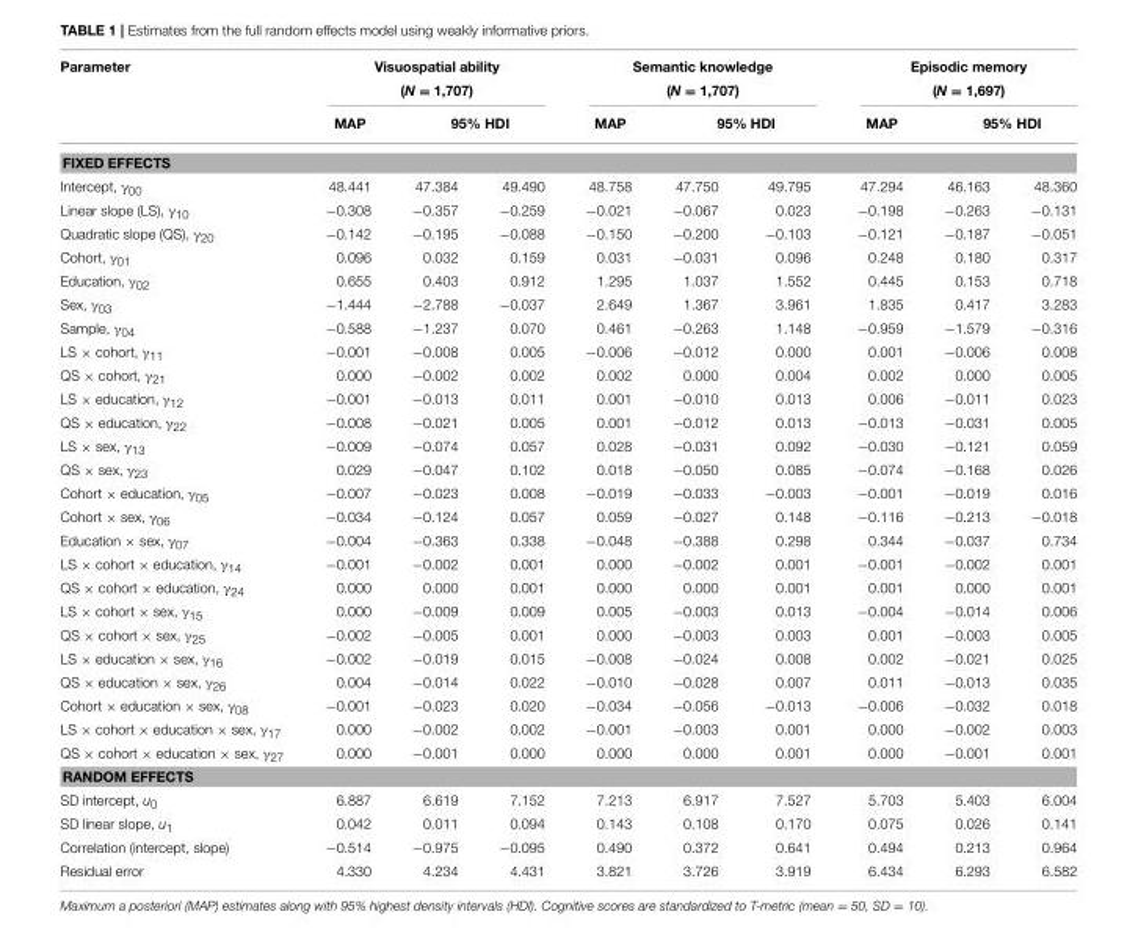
<table><thead><tr><td rowspan="2">Parameter</td><td colspan="3">Visuospatial ability (N = 1,707)</td><td colspan="3">Semantic knowledge (N = 1,707)</td><td colspan="3">Episodic memory (N = 1,697)</td></tr><tr><td>MAP</td><td colspan="2">95% HDI</td><td>MAP</td><td colspan="2">95% HDI</td><td>MAP</td><td colspan="2">95% HDI</td></tr><tr><td colspan="10">FIXED EFFECTS</td></tr><tr><td>Intercept, γ<sub>00</sub></td><td>48.441</td><td>47.384</td><td>49.490</td><td>48.758</td><td>47.750</td><td>49.795</td><td>47.294</td><td>46.163</td><td>48.360</td></tr></thead><tbody><tr><td>Linear slope (LS), γ<sub>10</sub></td><td>−0.308</td><td>−0.357</td><td>−0.259</td><td>−0.021</td><td>−0.067</td><td>0.023</td><td>−0.198</td><td>−0.263</td><td>−0.131</td></tr><tr><td>Quadratic slope (QS), γ<sub>20</sub></td><td>−0.142</td><td>−0.195</td><td>−0.088</td><td>−0.150</td><td>−0.200</td><td>−0.103</td><td>−0.121</td><td>−0.187</td><td>−0.051</td></tr><tr><td>Cohort, γ<sub>01</sub></td><td>0.096</td><td>0.032</td><td>0.159</td><td>0.031</td><td>−0.031</td><td>0.096</td><td>0.248</td><td>0.180</td><td>0.317</td></tr><tr><td>Education, γ<sub>02</sub></td><td>0.655</td><td>0.403</td><td>0.912</td><td>1.295</td><td>1.037</td><td>1.552</td><td>0.445</td><td>0.153</td><td>0.718</td></tr><tr><td>Sex, γ<sub>03</sub></td><td>−1.444</td><td>−2.788</td><td>−0.037</td><td>2.649</td><td>1.367</td><td>3.961</td><td>1.835</td><td>0.417</td><td>3.283</td></tr><tr><td>Sample, γ<sub>04</sub></td><td>−0.588</td><td>−1.237</td><td>0.070</td><td>0.461</td><td>−0.263</td><td>1.148</td><td>−0.959</td><td>−1.579</td><td>−0.316</td></tr><tr><td>LS × cohort, γ<sub>11</sub></td><td>−0.001</td><td>−0.008</td><td>0.005</td><td>−0.006</td><td>−0.012</td><td>0.000</td><td>0.001</td><td>−0.006</td><td>0.008</td></tr><tr><td>QS × cohort, γ<sub>21</sub></td><td>0.000</td><td>−0.002</td><td>0.002</td><td>0.002</td><td>0.000</td><td>0.004</td><td>0.002</td><td>0.000</td><td>0.005</td></tr><tr><td>LS × education, γ<sub>12</sub></td><td>−0.001</td><td>−0.013</td><td>0.011</td><td>0.001</td><td>−0.010</td><td>0.013</td><td>0.006</td><td>−0.011</td><td>0.023</td></tr><tr><td>QS × education, γ<sub>22</sub></td><td>−0.008</td><td>−0.021</td><td>0.005</td><td>0.001</td><td>−0.012</td><td>0.013</td><td>−0.013</td><td>−0.031</td><td>0.005</td></tr><tr><td>LS × sex, γ<sub>13</sub></td><td>−0.009</td><td>−0.074</td><td>0.057</td><td>0.028</td><td>−0.031</td><td>0.092</td><td>−0.030</td><td>−0.121</td><td>0.059</td></tr><tr><td>QS × sex, γ<sub>23</sub></td><td>0.029</td><td>−0.047</td><td>0.102</td><td>0.018</td><td>−0.050</td><td>0.085</td><td>−0.074</td><td>−0.168</td><td>0.026</td></tr><tr><td>Cohort × education, γ<sub>05</sub></td><td>−0.007</td><td>−0.023</td><td>0.008</td><td>−0.019</td><td>−0.033</td><td>−0.003</td><td>−0.001</td><td>−0.019</td><td>0.016</td></tr><tr><td>Cohort × sex, γ<sub>06</sub></td><td>−0.034</td><td>−0.124</td><td>0.057</td><td>0.059</td><td>−0.027</td><td>0.148</td><td>−0.116</td><td>−0.213</td><td>−0.018</td></tr><tr><td>Education × sex, γ<sub>07</sub></td><td>−0.004</td><td>−0.363</td><td>0.338</td><td>−0.048</td><td>−0.388</td><td>0.298</td><td>0.344</td><td>−0.037</td><td>0.734</td></tr><tr><td>LS × cohort × education, γ<sub>14</sub></td><td>−0.001</td><td>−0.002</td><td>0.001</td><td>0.000</td><td>−0.002</td><td>0.001</td><td>−0.001</td><td>−0.002</td><td>0.001</td></tr><tr><td>QS × cohort × education, γ<sub>24</sub></td><td>0.000</td><td>0.000</td><td>0.001</td><td>0.000</td><td>0.000</td><td>0.001</td><td>0.001</td><td>0.000</td><td>0.001</td></tr><tr><td>LS × cohort × sex, γ<sub>15</sub></td><td>0.000</td><td>−0.009</td><td>0.009</td><td>0.005</td><td>−0.003</td><td>0.013</td><td>−0.004</td><td>−0.014</td><td>0.006</td></tr><tr><td>QS × cohort × sex, γ<sub>25</sub></td><td>−0.002</td><td>−0.005</td><td>0.001</td><td>0.000</td><td>−0.003</td><td>0.003</td><td>0.001</td><td>−0.003</td><td>0.005</td></tr><tr><td>LS × education × sex, γ<sub>16</sub></td><td>−0.002</td><td>−0.019</td><td>0.015</td><td>−0.008</td><td>−0.024</td><td>0.008</td><td>0.002</td><td>−0.021</td><td>0.025</td></tr><tr><td>QS × education × sex, γ<sub>26</sub></td><td>0.004</td><td>−0.014</td><td>0.022</td><td>−0.010</td><td>−0.028</td><td>0.007</td><td>0.011</td><td>−0.013</td><td>0.035</td></tr><tr><td>Cohort × education × sex, γ<sub>08</sub></td><td>−0.001</td><td>−0.023</td><td>0.020</td><td>−0.034</td><td>−0.056</td><td>−0.013</td><td>−0.006</td><td>−0.032</td><td>0.018</td></tr><tr><td>LS × cohort × education × sex, γ<sub>17</sub></td><td>0.000</td><td>−0.002</td><td>0.002</td><td>−0.001</td><td>−0.003</td><td>0.001</td><td>0.000</td><td>−0.002</td><td>0.003</td></tr><tr><td>QS × cohort × education × sex, γ<sub>27</sub></td><td>0.000</td><td>−0.001</td><td>0.000</td><td>0.000</td><td>0.000</td><td>0.001</td><td>0.000</td><td>−0.001</td><td>0.001</td></tr><tr><td colspan="10">RANDOM EFFECTS</td></tr><tr><td>SD intercept, u<sub>0</sub></td><td>6.887</td><td>6.619</td><td>7.152</td><td>7.213</td><td>6.917</td><td>7.527</td><td>5.703</td><td>5.403</td><td>6.004</td></tr><tr><td>SD linear slope, u<sub>1</sub></td><td>0.042</td><td>0.011</td><td>0.094</td><td>0.143</td><td>0.108</td><td>0.170</td><td>0.075</td><td>0.026</td><td>0.141</td></tr><tr><td>Correlation (intercept, slope)</td><td>−0.514</td><td>−0.975</td><td>−0.095</td><td>0.490</td><td>0.372</td><td>0.641</td><td>0.494</td><td>0.213</td><td>0.964</td></tr><tr><td>Residual error</td><td>4.330</td><td>4.234</td><td>4.431</td><td>3.821</td><td>3.726</td><td>3.919</td><td>6.434</td><td>6.293</td><td>6.582</td></tr></tbody></table>